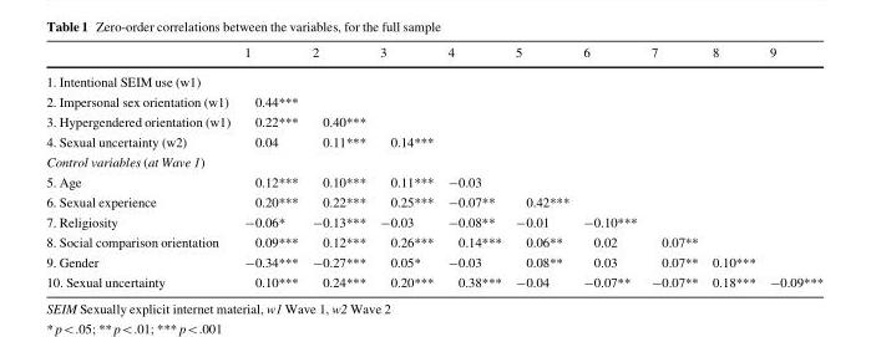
<table><thead><tr><td></td><td>1</td><td>2</td><td>3</td><td>4</td><td>5</td><td>6</td><td>7</td><td>8</td><td>9</td></tr></thead><tbody><tr><td colspan="10">1. Intentional SEIM use (w1)</td></tr><tr><td>2. Impersonal sex orientation (w1)</td><td>0.44***</td><td></td><td></td><td></td><td></td><td></td><td></td><td></td><td></td></tr><tr><td>3. Hypergendered orientation (w1)</td><td>0.22***</td><td>0.40***</td><td></td><td></td><td></td><td></td><td></td><td></td><td></td></tr><tr><td>4. Sexual uncertainty (w2)</td><td>0.04</td><td>0.11***</td><td>0.14***</td><td></td><td></td><td></td><td></td><td></td><td></td></tr><tr><td colspan="10">Control variables (at Wave 1)</td></tr><tr><td>5. Age</td><td>0.12***</td><td>0.10***</td><td>0.11***</td><td>-0.03</td><td></td><td></td><td></td><td></td><td></td></tr><tr><td>6. Sexual experience</td><td>0.20***</td><td>0.22***</td><td>0.25***</td><td>-0.07**</td><td>0.42***</td><td></td><td></td><td></td><td></td></tr><tr><td>7. Religiosity</td><td>-0.06*</td><td>-0.13***</td><td>-0.03</td><td>-0.08**</td><td>-0.01</td><td>-0.10***</td><td></td><td></td><td></td></tr><tr><td>8. Social comparison orientation</td><td>0.09***</td><td>0.12***</td><td>0.26***</td><td>0.14***</td><td>0.06**</td><td>0.02</td><td>0.07**</td><td></td><td></td></tr><tr><td>9. Gender</td><td>-0.34***</td><td>-0.27***</td><td>0.05*</td><td>-0.03</td><td>0.08**</td><td>0.03</td><td>0.07**</td><td>0.10***</td><td></td></tr><tr><td>10. Sexual uncertainty</td><td>0.10***</td><td>0.24***</td><td>0.20***</td><td>0.38***</td><td>-0.04</td><td>-0.07**</td><td>-0.07**</td><td>0.18***</td><td>-0.09***</td></tr></tbody></table>